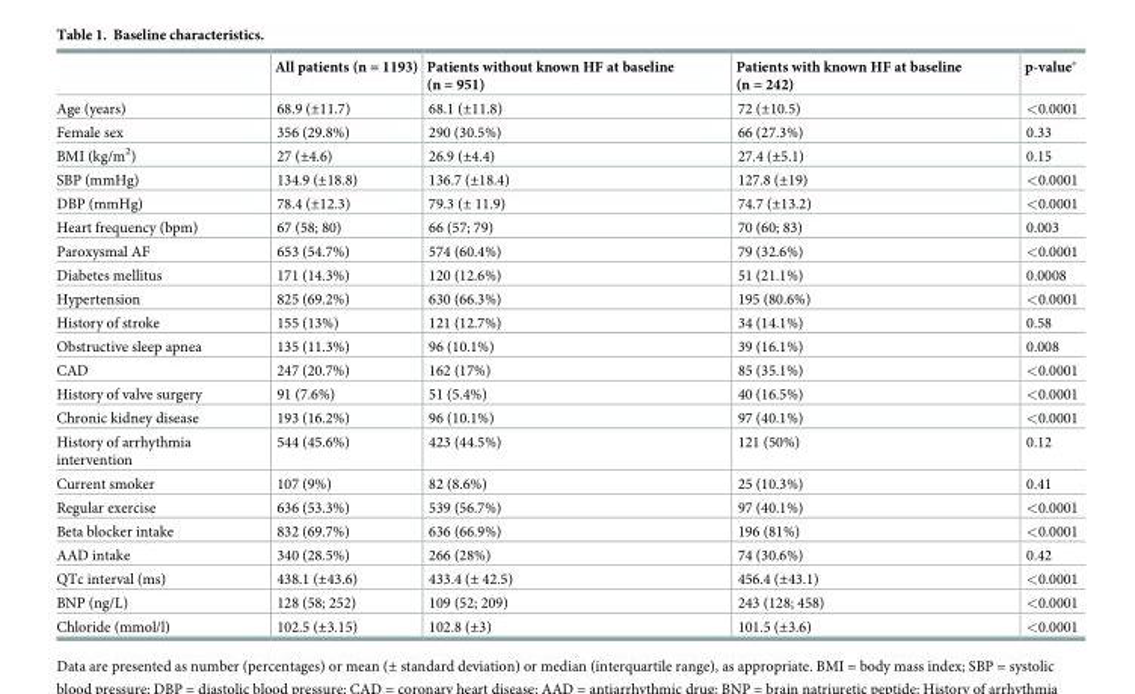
<table><thead><tr><td></td><td>All patients (n = 1193)</td><td>Patients without known HF at baseline (n = 951)</td><td>Patients with known HF at baseline (n = 242)</td><td>p-value*</td></tr></thead><tbody><tr><td>Age (years)</td><td>68.9 (±11.7)</td><td>68.1 (±11.8)</td><td>72 (±10.5)</td><td>&lt;0.0001</td></tr><tr><td>Female sex</td><td>356 (29.8%)</td><td>290 (30.5%)</td><td>66 (27.3%)</td><td>0.33</td></tr><tr><td>BMI (kg/m<sup>2</sup>)</td><td>27 (±4.6)</td><td>26.9 (±4.4)</td><td>27.4 (±5.1)</td><td>0.15</td></tr><tr><td>SBP (mmHg)</td><td>134.9 (±18.8)</td><td>136.7 (±18.4)</td><td>127.8 (±19)</td><td>&lt;0.0001</td></tr><tr><td>DBP (mmHg)</td><td>78.4 (±12.3)</td><td>79.3 (± 11.9)</td><td>74.7 (±13.2)</td><td>&lt;0.0001</td></tr><tr><td>Heart frequency (bpm)</td><td>67 (58; 80)</td><td>66 (57; 79)</td><td>70 (60; 83)</td><td>0.003</td></tr><tr><td>Paroxysmal AF</td><td>653 (54.7%)</td><td>574 (60.4%)</td><td>79 (32.6%)</td><td>&lt;0.0001</td></tr><tr><td>Diabetes mellitus</td><td>171 (14.3%)</td><td>120 (12.6%)</td><td>51 (21.1%)</td><td>0.0008</td></tr><tr><td>Hypertension</td><td>825 (69.2%)</td><td>630 (66.3%)</td><td>195 (80.6%)</td><td>&lt;0.0001</td></tr><tr><td>History of stroke</td><td>155 (13%)</td><td>121 (12.7%)</td><td>34 (14.1%)</td><td>0.58</td></tr><tr><td>Obstructive sleep apnea</td><td>135 (11.3%)</td><td>96 (10.1%)</td><td>39 (16.1%)</td><td>0.008</td></tr><tr><td>CAD</td><td>247 (20.7%)</td><td>162 (17%)</td><td>85 (35.1%)</td><td>&lt;0.0001</td></tr><tr><td>History of valve surgery</td><td>91 (7.6%)</td><td>51 (5.4%)</td><td>40 (16.5%)</td><td>&lt;0.0001</td></tr><tr><td>Chronic kidney disease</td><td>193 (16.2%)</td><td>96 (10.1%)</td><td>97 (40.1%)</td><td>&lt;0.0001</td></tr><tr><td>History of arrhythmia intervention</td><td>544 (45.6%)</td><td>423 (44.5%)</td><td>121 (50%)</td><td>0.12</td></tr><tr><td>Current smoker</td><td>107 (9%)</td><td>82 (8.6%)</td><td>25 (10.3%)</td><td>0.41</td></tr><tr><td>Regular exercise</td><td>636 (53.3%)</td><td>539 (56.7%)</td><td>97 (40.1%)</td><td>&lt;0.0001</td></tr><tr><td>Beta blocker intake</td><td>832 (69.7%)</td><td>636 (66.9%)</td><td>196 (81%)</td><td>&lt;0.0001</td></tr><tr><td>AAD intake</td><td>340 (28.5%)</td><td>266 (28%)</td><td>74 (30.6%)</td><td>0.42</td></tr><tr><td>QTc interval (ms)</td><td>438.1 (±43.6)</td><td>433.4 (± 42.5)</td><td>456.4 (±43.1)</td><td>&lt;0.0001</td></tr><tr><td>BNP (ng/L)</td><td>128 (58; 252)</td><td>109 (52; 209)</td><td>243 (128; 458)</td><td>&lt;0.0001</td></tr><tr><td>Chloride (mmol/l)</td><td>102.5 (±3.15)</td><td>102.8 (±3)</td><td>101.5 (±3.6)</td><td>&lt;0.0001</td></tr></tbody></table>